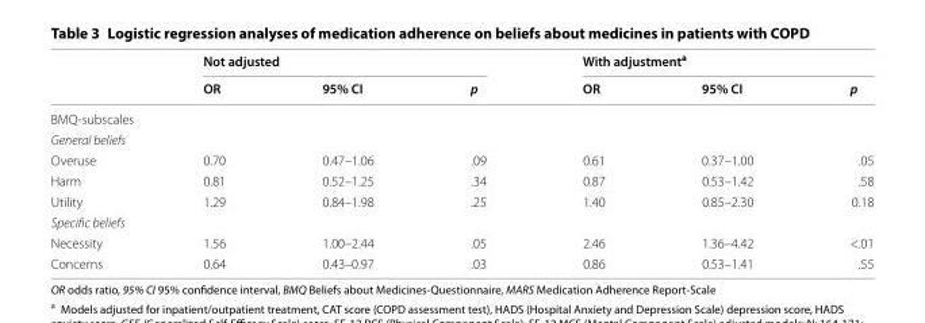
<table><thead><tr><td rowspan="2"></td><td colspan="3">Not adjusted</td><td colspan="3">With adjustment<sup>a</sup></td></tr><tr><td>OR</td><td>95% CI</td><td>p</td><td>OR</td><td>95% CI</td><td>p</td></tr></thead><tbody><tr><td colspan="7">BMQ-subscales</td></tr><tr><td colspan="7">General beliefs</td></tr><tr><td>Overuse</td><td>0.70</td><td>0.47–1.06</td><td>.09</td><td>0.61</td><td>0.37–1.00</td><td>.05</td></tr><tr><td>Harm</td><td>0.81</td><td>0.52–1.25</td><td>.34</td><td>0.87</td><td>0.53–1.42</td><td>.58</td></tr><tr><td>Utility</td><td>1.29</td><td>0.84–1.98</td><td>.25</td><td>1.40</td><td>0.85–2.30</td><td>0.18</td></tr><tr><td colspan="7">Specific beliefs</td></tr><tr><td>Necessity</td><td>1.56</td><td>1.00–2.44</td><td>.05</td><td>2.46</td><td>1.36–4.42</td><td>&lt;.01</td></tr><tr><td>Concerns</td><td>0.64</td><td>0.43–0.97</td><td>.03</td><td>0.86</td><td>0.53–1.41</td><td>.55</td></tr></tbody></table>